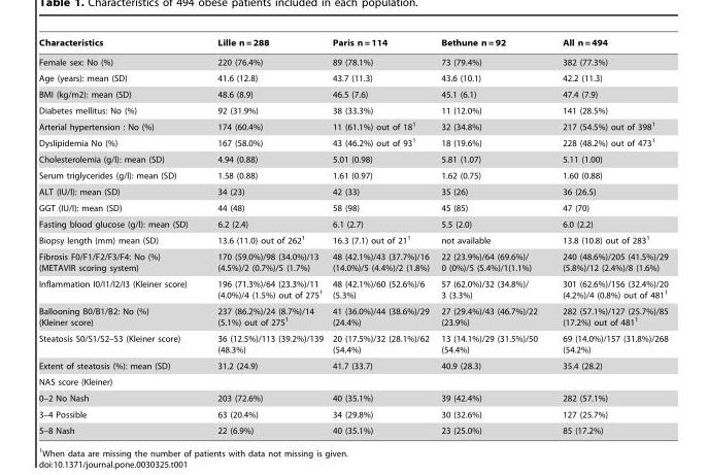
<table><thead><tr><td>Characteristics</td><td>Lille n = 288</td><td>Paris n = 114</td><td>Bethune n = 92</td><td>All n = 494</td></tr></thead><tbody><tr><td>Female sex: No (%)</td><td>220 (76.4%)</td><td>89 (78.1%)</td><td>73 (79.4%)</td><td>382 (77.3%)</td></tr><tr><td>Age (years): mean (SD)</td><td>41.6 (12.8)</td><td>43.7 (11.3)</td><td>43.6 (10.1)</td><td>42.2 (11.3)</td></tr><tr><td>BMI (kg/m2): mean (SD)</td><td>48.6 (8.9)</td><td>46.5 (7.6)</td><td>45.1 (6.1)</td><td>47.4 (7.9)</td></tr><tr><td>Diabetes mellitus: No (%)</td><td>92 (31.9%)</td><td>38 (33.3%)</td><td>11 (12.0%)</td><td>141 (28.5%)</td></tr><tr><td>Arterial hypertension : No (%)</td><td>174 (60.4%)</td><td>11 (61.1%) out of 18<sup>1</sup></td><td>32 (34.8%)</td><td>217 (54.5%) out of 398<sup>1</sup></td></tr><tr><td>Dyslipidemia No (%)</td><td>167 (58.0%)</td><td>43 (46.2%) out of 93<sup>1</sup></td><td>18 (19.6%)</td><td>228 (48.2%) out of 473<sup>1</sup></td></tr><tr><td>Cholesterolemia (g/l): mean (SD)</td><td>4.94 (0.88)</td><td>5.01 (0.98)</td><td>5.81 (1.07)</td><td>5.11 (1.00)</td></tr><tr><td>Serum triglycerides (g/l): mean (SD)</td><td>1.58 (0.88)</td><td>1.61 (0.97)</td><td>1.62 (0.75)</td><td>1.60 (0.88)</td></tr><tr><td>ALT (IU/l): mean (SD)</td><td>34 (23)</td><td>42 (33)</td><td>35 (26)</td><td>36 (26.5)</td></tr><tr><td>GGT (IU/l): mean (SD)</td><td>44 (48)</td><td>58 (98)</td><td>45 (85)</td><td>47 (70)</td></tr><tr><td>Fasting blood glucose (g/l): mean (SD)</td><td>6.2 (2.4)</td><td>6.1 (2.7)</td><td>5.5 (2.0)</td><td>6.0 (2.2)</td></tr><tr><td>Biopsy length (mm) mean (SD)</td><td>13.6 (11.0) out of 262<sup>1</sup></td><td>16.3 (7.1) out of 21<sup>1</sup></td><td>not available</td><td>13.8 (10.8) out of 283<sup>1</sup></td></tr><tr><td>Fibrosis F0/F1/F2/F3/F4: No (%) (METAVIR scoring system)</td><td>170 (59.0%)/98 (34.0%)/13 (4.5%)/2 (0.7%)/5 (1.7%)</td><td>48 (42.1%)/43 (37.7%)/16 (14.0%)/5 (4.4%)/2 (1.8%)</td><td>22 (23.9%)/64 (69.6%)/ 0 (0%)/5 (5.4%)/1(1.1%)</td><td>240 (48.6%)/205 (41.5%)/29 (5.8%)/12 (2.4%)/8 (1.6%)</td></tr><tr><td>Inflammation I0/I1/I2/I3 (Kleiner score)</td><td>196 (71.3%)/64 (23.3%)/11 (4.0%)/4 (1.5%) out of 275<sup>1</sup></td><td>48 (42.1%)/60 (52.6%)/6 (5.3%)</td><td>57 (62.0%)/32 (34.8%)/ 3 (3.3%)</td><td>301 (62.6%)/156 (32.4%)/20 (4.2%)/4 (0.8%) out of 481<sup>1</sup></td></tr><tr><td>Ballooning B0/B1/B2: No (%) (Kleiner score)</td><td>237 (86.2%)/24 (8.7%)/14 (5.1%) out of 275<sup>1</sup></td><td>41 (36.0%)/44 (38.6%)/29 (24.4%)</td><td>27 (29.4%)/43 (46.7%)/22 (23.9%)</td><td>282 (57.1%)/127 (25.7%)/85 (17.2%) out of 481<sup>1</sup></td></tr><tr><td>Steatosis S0/S1/S2–S3 (Kleiner score)</td><td>36 (12.5%)/113 (39.2%)/139 (48.3%)</td><td>20 (17.5%)/32 (28.1%)/62 (54.4%)</td><td>13 (14.1%)/29 (31.5%)/50 (54.4%)</td><td>69 (14.0%)/157 (31.8%)/268 (54.2%)</td></tr><tr><td>Extent of steatosis (%): mean (SD)</td><td>31.2 (24.9)</td><td>41.7 (33.7)</td><td>40.9 (28.3)</td><td>35.4 (28.2)</td></tr><tr><td colspan="5">NAS score (Kleiner)</td></tr><tr><td>0–2 No Nash</td><td>203 (72.6%)</td><td>40 (35.1%)</td><td>39 (42.4%)</td><td>282 (57.1%)</td></tr><tr><td>3–4 Possible</td><td>63 (20.4%)</td><td>34 (29.8%)</td><td>30 (32.6%)</td><td>127 (25.7%)</td></tr><tr><td>5–8 Nash</td><td>22 (6.9%)</td><td>40 (35.1%)</td><td>23 (25.0%)</td><td>85 (17.2%)</td></tr></tbody></table>